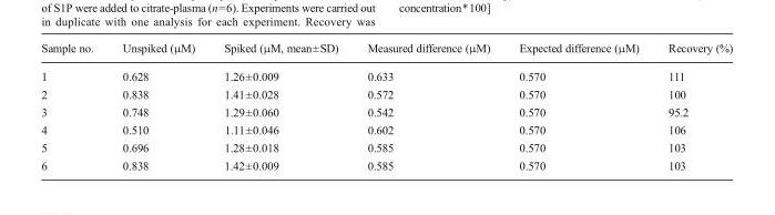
<table><thead><tr><td>Sample no.</td><td>Unspiked (μM)</td><td>Spiked (μM, mean±SD)</td><td>Measured difference (μM)</td><td>Expected difference (μM)</td><td>Recovery (%)</td></tr></thead><tbody><tr><td>1</td><td>0.628</td><td>1.26±0.009</td><td>0.633</td><td>0.570</td><td>111</td></tr><tr><td>2</td><td>0.838</td><td>1.41±0.028</td><td>0.572</td><td>0.570</td><td>100</td></tr><tr><td>3</td><td>0.748</td><td>1.29±0.060</td><td>0.542</td><td>0.570</td><td>95.2</td></tr><tr><td>4</td><td>0.510</td><td>1.11±0.046</td><td>0.602</td><td>0.570</td><td>106</td></tr><tr><td>5</td><td>0.696</td><td>1.28±0.018</td><td>0.585</td><td>0.570</td><td>103</td></tr><tr><td>6</td><td>0.838</td><td>1.42±0.009</td><td>0.585</td><td>0.570</td><td>103</td></tr></tbody></table>